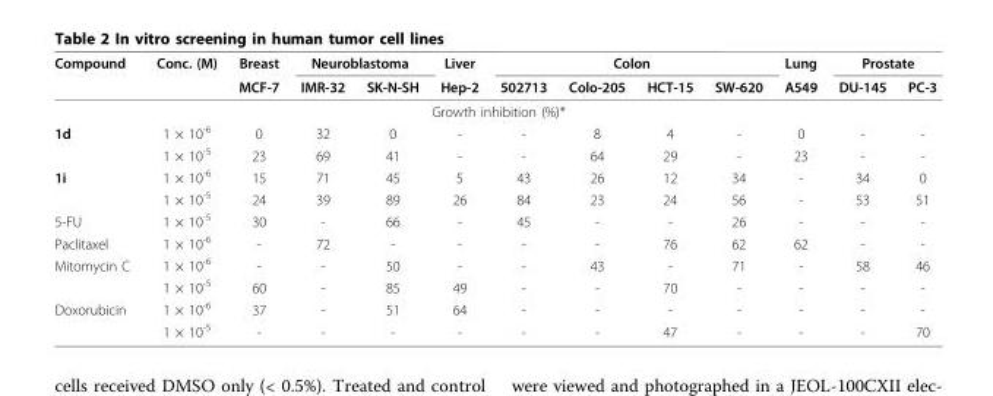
<table><thead><tr><td rowspan="2">Compound</td><td rowspan="2">Conc. (M)</td><td rowspan="2">Breast MCF-7</td><td colspan="2">Neuroblastoma</td><td rowspan="2">Liver Hep-2</td><td colspan="4">Colon</td><td rowspan="2">Lung A549</td><td colspan="2">Prostate</td></tr><tr><td>IMR-32</td><td>SK-N-SH</td><td>502713</td><td>Colo-205</td><td>HCT-15</td><td>SW-620</td><td>DU-145</td><td>PC-3</td></tr></thead><tbody><tr><td colspan="13">Growth inhibition (%)*</td></tr><tr><td rowspan="2">1d</td><td>1 × 10<sup>-6</sup></td><td>0</td><td>32</td><td>0</td><td>-</td><td>-</td><td>8</td><td>4</td><td>-</td><td>0</td><td>-</td><td>-</td></tr><tr><td>1 × 10<sup>-5</sup></td><td>23</td><td>69</td><td>41</td><td>-</td><td>-</td><td>64</td><td>29</td><td>-</td><td>23</td><td>-</td><td>-</td></tr><tr><td rowspan="2">1i</td><td>1 × 10<sup>-6</sup></td><td>15</td><td>71</td><td>45</td><td>5</td><td>43</td><td>26</td><td>12</td><td>34</td><td>-</td><td>34</td><td>0</td></tr><tr><td>1 × 10<sup>-5</sup></td><td>24</td><td>39</td><td>89</td><td>26</td><td>84</td><td>23</td><td>24</td><td>56</td><td>-</td><td>53</td><td>51</td></tr><tr><td>5-FU</td><td>1 × 10<sup>-5</sup></td><td>30</td><td>-</td><td>66</td><td>-</td><td>45</td><td>-</td><td>-</td><td>26</td><td>-</td><td>-</td><td>-</td></tr><tr><td>Paclitaxel</td><td>1 × 10<sup>-6</sup></td><td>-</td><td>72</td><td>-</td><td>-</td><td>-</td><td>-</td><td>76</td><td>62</td><td>62</td><td>-</td><td>-</td></tr><tr><td rowspan="2">Mitomycin C</td><td>1 × 10<sup>-6</sup></td><td>-</td><td>-</td><td>50</td><td>-</td><td>-</td><td>43</td><td>-</td><td>71</td><td>-</td><td>58</td><td>46</td></tr><tr><td>1 × 10<sup>-5</sup></td><td>60</td><td>-</td><td>85</td><td>49</td><td>-</td><td>-</td><td>70</td><td>-</td><td>-</td><td>-</td><td>-</td></tr><tr><td rowspan="2">Doxorubicin</td><td>1 × 10<sup>-6</sup></td><td>37</td><td>-</td><td>51</td><td>64</td><td>-</td><td>-</td><td>-</td><td>-</td><td>-</td><td>-</td><td>-</td></tr><tr><td>1 × 10<sup>-5</sup></td><td>-</td><td>-</td><td>-</td><td>-</td><td>-</td><td>-</td><td>47</td><td>-</td><td>-</td><td>-</td><td>70</td></tr></tbody></table>